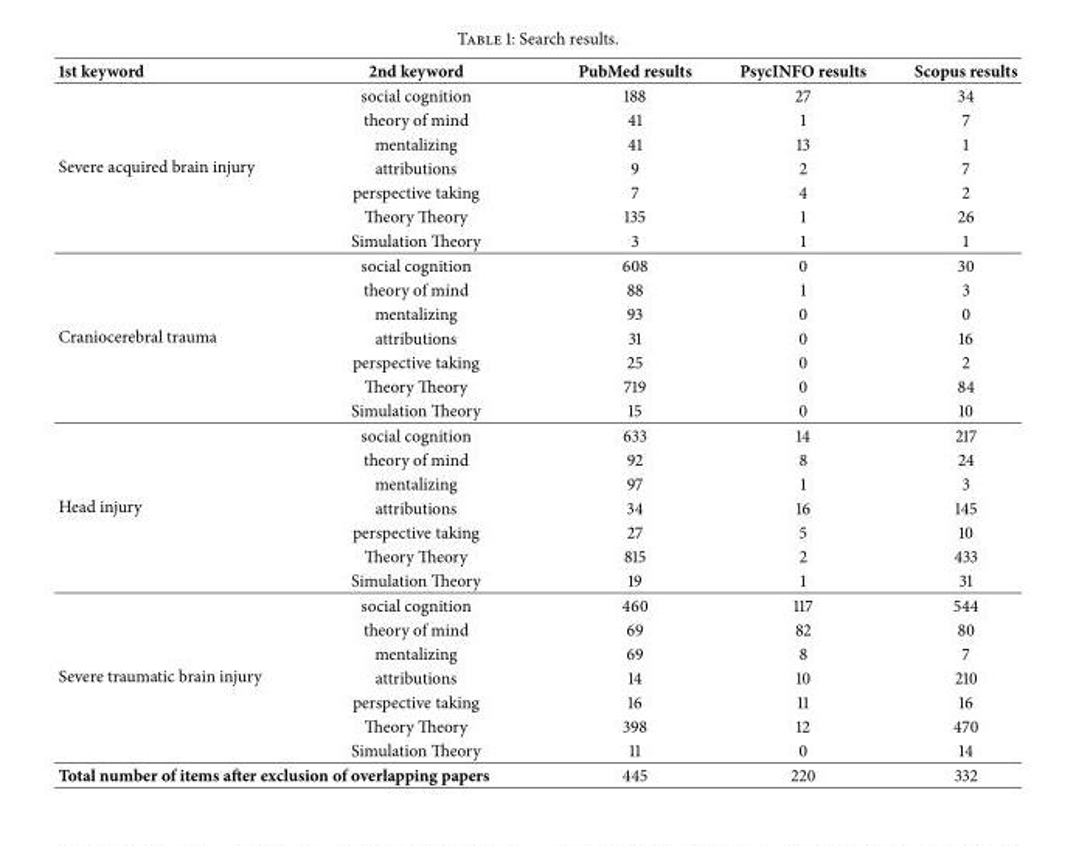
<table><tbody><tr><td>1st keyword</td><td>2nd keyword</td><td>PubMed results</td><td>PsycINFO results</td><td>Scopus results</td></tr><tr><td rowspan="7">Severe acquired brain injury</td><td>social cognition</td><td>188</td><td>27</td><td>34</td></tr><tr><td>theory of mind</td><td>41</td><td>1</td><td>7</td></tr><tr><td>mentalizing</td><td>41</td><td>13</td><td>1</td></tr><tr><td>attributions</td><td>9</td><td>2</td><td>7</td></tr><tr><td>perspective taking</td><td>7</td><td>4</td><td>2</td></tr><tr><td>Theory Theory</td><td>135</td><td>1</td><td>26</td></tr><tr><td>Simulation Theory</td><td>3</td><td>1</td><td>1</td></tr><tr><td rowspan="7">Craniocerebral trauma</td><td>social cognition</td><td>608</td><td>0</td><td>30</td></tr><tr><td>theory of mind</td><td>88</td><td>1</td><td>3</td></tr><tr><td>mentalizing</td><td>93</td><td>0</td><td>0</td></tr><tr><td>attributions</td><td>31</td><td>0</td><td>16</td></tr><tr><td>perspective taking</td><td>25</td><td>0</td><td>2</td></tr><tr><td>Theory Theory</td><td>719</td><td>0</td><td>84</td></tr><tr><td>Simulation Theory</td><td>15</td><td>0</td><td>10</td></tr><tr><td rowspan="7">Head injury</td><td>social cognition</td><td>633</td><td>14</td><td>217</td></tr><tr><td>theory of mind</td><td>92</td><td>8</td><td>24</td></tr><tr><td>mentalizing</td><td>97</td><td>1</td><td>3</td></tr><tr><td>attributions</td><td>34</td><td>16</td><td>145</td></tr><tr><td>perspective taking</td><td>27</td><td>5</td><td>10</td></tr><tr><td>Theory Theory</td><td>815</td><td>2</td><td>433</td></tr><tr><td>Simulation Theory</td><td>19</td><td>1</td><td>31</td></tr><tr><td rowspan="7">Severe traumatic brain injury</td><td>social cognition</td><td>460</td><td>117</td><td>544</td></tr><tr><td>theory of mind</td><td>69</td><td>82</td><td>80</td></tr><tr><td>mentalizing</td><td>69</td><td>8</td><td>7</td></tr><tr><td>attributions</td><td>14</td><td>10</td><td>210</td></tr><tr><td>perspective taking</td><td>16</td><td>11</td><td>16</td></tr><tr><td>Theory Theory</td><td>398</td><td>12</td><td>470</td></tr><tr><td>Simulation Theory</td><td>11</td><td>0</td><td>14</td></tr><tr><td colspan="2">Total number of items after exclusion of overlapping papers</td><td>445</td><td>220</td><td>332</td></tr></tbody></table>